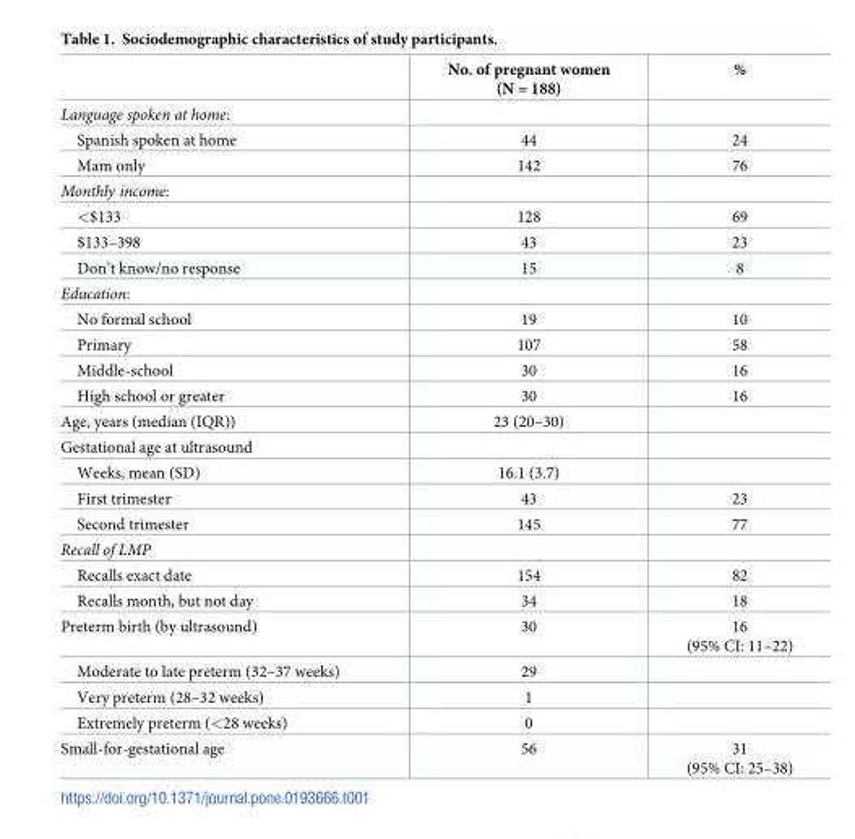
<table><thead><tr><td></td><td>No. of pregnant women (N = 188)</td><td>%</td></tr></thead><tbody><tr><td colspan="3">Language spoken at home:</td></tr><tr><td>Spanish spoken at home</td><td>44</td><td>24</td></tr><tr><td>Mam only</td><td>142</td><td>76</td></tr><tr><td colspan="3">Monthly income:</td></tr><tr><td>&lt;$133</td><td>128</td><td>69</td></tr><tr><td>$133–398</td><td>43</td><td>23</td></tr><tr><td>Don’t know/no response</td><td>15</td><td>8</td></tr><tr><td colspan="3">Education:</td></tr><tr><td>No formal school</td><td>19</td><td>10</td></tr><tr><td>Primary</td><td>107</td><td>58</td></tr><tr><td>Middle-school</td><td>30</td><td>16</td></tr><tr><td>High school or greater</td><td>30</td><td>16</td></tr><tr><td>Age, years (median (IQR))</td><td>23 (20–30)</td><td></td></tr><tr><td colspan="3">Gestational age at ultrasound</td></tr><tr><td>Weeks, mean (SD)</td><td>16.1 (3.7)</td><td></td></tr><tr><td>First trimester</td><td>43</td><td>23</td></tr><tr><td>Second trimester</td><td>145</td><td>77</td></tr><tr><td colspan="3">Recall of LMP</td></tr><tr><td>Recalls exact date</td><td>154</td><td>82</td></tr><tr><td>Recalls month, but not day</td><td>34</td><td>18</td></tr><tr><td>Preterm birth (by ultrasound)</td><td>30</td><td>16 (95% CI: 11–22)</td></tr><tr><td>Moderate to late preterm (32–37 weeks)</td><td>29</td><td></td></tr><tr><td>Very preterm (28–32 weeks)</td><td>1</td><td></td></tr><tr><td>Extremely preterm (&lt;28 weeks)</td><td>0</td><td></td></tr><tr><td>Small-for-gestational age</td><td>56</td><td>31 (95% CI: 25–38)</td></tr></tbody></table>